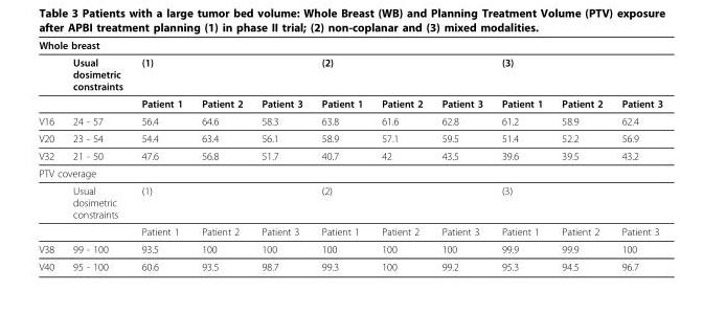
<table><thead><tr><td colspan="11">Whole breast</td></tr><tr><td rowspan="2"></td><td rowspan="2">Usual dosimetric constraints</td><td colspan="3">(1)</td><td colspan="3">(2)</td><td colspan="3">(3)</td></tr><tr><td>Patient 1</td><td>Patient 2</td><td>Patient 3</td><td>Patient 1</td><td>Patient 2</td><td>Patient 3</td><td>Patient 1</td><td>Patient 2</td><td>Patient 3</td></tr></thead><tbody><tr><td>V16</td><td>24 - 57</td><td>56.4</td><td>64.6</td><td>58.3</td><td>63.8</td><td>61.6</td><td>62.8</td><td>61.2</td><td>58.9</td><td>62.4</td></tr><tr><td>V20</td><td>23 - 54</td><td>54.4</td><td>63.4</td><td>56.1</td><td>58.9</td><td>57.1</td><td>59.5</td><td>51.4</td><td>52.2</td><td>56.9</td></tr><tr><td>V32</td><td>21 - 50</td><td>47.6</td><td>56.8</td><td>51.7</td><td>40.7</td><td>42</td><td>43.5</td><td>39.6</td><td>39.5</td><td>43.2</td></tr><tr><td colspan="11">PTV coverage</td></tr><tr><td></td><td>Usual dosimetric constraints</td><td colspan="3">(1)</td><td colspan="3">(2)</td><td colspan="3">(3)</td></tr><tr><td></td><td></td><td>Patient 1</td><td>Patient 2</td><td>Patient 3</td><td>Patient 1</td><td>Patient 2</td><td>Patient 3</td><td>Patient 1</td><td>Patient 2</td><td>Patient 3</td></tr><tr><td>V38</td><td>99 - 100</td><td>93.5</td><td>100</td><td>100</td><td>100</td><td>100</td><td>100</td><td>99.9</td><td>99.9</td><td>100</td></tr><tr><td>V40</td><td>95 - 100</td><td>60.6</td><td>93.5</td><td>98.7</td><td>99.3</td><td>100</td><td>99.2</td><td>95.3</td><td>94.5</td><td>96.7</td></tr></tbody></table>